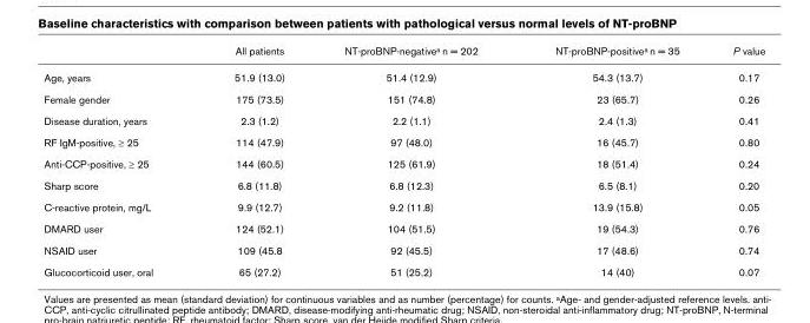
<table><thead><tr><td></td><td>All patients</td><td>NT-proBNP-negative<sup>a</sup> n = 202</td><td>NT-proBNP-positive<sup>a</sup> n = 35</td><td>P value</td></tr></thead><tbody><tr><td>Age, years</td><td>51.9 (13.0)</td><td>51.4 (12.9)</td><td>54.3 (13.7)</td><td>0.17</td></tr><tr><td>Female gender</td><td>175 (73.5)</td><td>151 (74.8)</td><td>23 (65.7)</td><td>0.26</td></tr><tr><td>Disease duration, years</td><td>2.3 (1.2)</td><td>2.2 (1.1)</td><td>2.4 (1.3)</td><td>0.41</td></tr><tr><td>RF IgM-positive, ≥ 25</td><td>114 (47.9)</td><td>97 (48.0)</td><td>16 (45.7)</td><td>0.80</td></tr><tr><td>Anti-CCP-positive, ≥ 25</td><td>144 (60.5)</td><td>125 (61.9)</td><td>18 (51.4)</td><td>0.24</td></tr><tr><td>Sharp score</td><td>6.8 (11.8)</td><td>6.8 (12.3)</td><td>6.5 (8.1)</td><td>0.20</td></tr><tr><td>C-reactive protein, mg/L</td><td>9.9 (12.7)</td><td>9.2 (11.8)</td><td>13.9 (15.8)</td><td>0.05</td></tr><tr><td>DMARD user</td><td>124 (52.1)</td><td>104 (51.5)</td><td>19 (54.3)</td><td>0.76</td></tr><tr><td>NSAID user</td><td>109 (45.8</td><td>92 (45.5)</td><td>17 (48.6)</td><td>0.74</td></tr><tr><td>Glucocorticoid user, oral</td><td>65 (27.2)</td><td>51 (25.2)</td><td>14 (40)</td><td>0.07</td></tr></tbody></table>